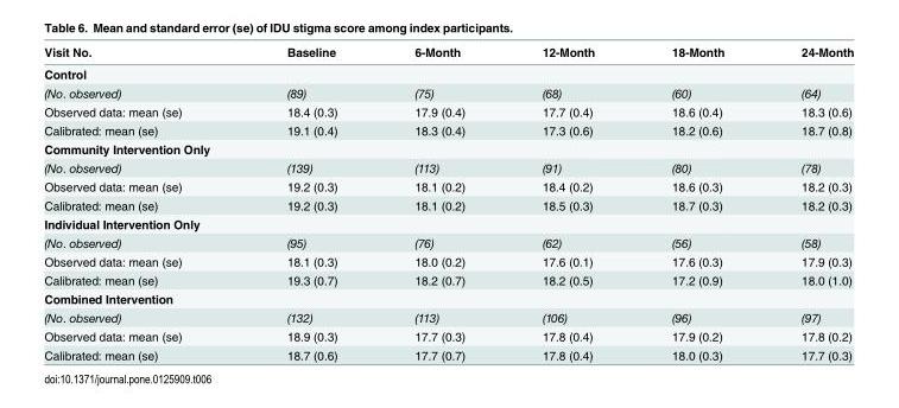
<table><thead><tr><td>Visit No.</td><td>Baseline</td><td>6-Month</td><td>12-Month</td><td>18-Month</td><td>24-Month</td></tr></thead><tbody><tr><td colspan="6">Control</td></tr><tr><td>(No. observed)</td><td>(89)</td><td>(75)</td><td>(68)</td><td>(60)</td><td>(64)</td></tr><tr><td>Observed data: mean (se)</td><td>18.4 (0.3)</td><td>17.9 (0.4)</td><td>17.7 (0.4)</td><td>18.6 (0.4)</td><td>18.3 (0.6)</td></tr><tr><td>Calibrated: mean (se)</td><td>19.1 (0.4)</td><td>18.3 (0.4)</td><td>17.3 (0.6)</td><td>18.2 (0.6)</td><td>18.7 (0.8)</td></tr><tr><td colspan="6">Community Intervention Only</td></tr><tr><td>(No. observed)</td><td>(139)</td><td>(113)</td><td>(91)</td><td>(80)</td><td>(78)</td></tr><tr><td>Observed data: mean (se)</td><td>19.2 (0.3)</td><td>18.1 (0.2)</td><td>18.4 (0.2)</td><td>18.6 (0.3)</td><td>18.2 (0.3)</td></tr><tr><td>Calibrated: mean (se)</td><td>19.2 (0.3)</td><td>18.1 (0.2)</td><td>18.5 (0.3)</td><td>18.7 (0.3)</td><td>18.2 (0.3)</td></tr><tr><td colspan="6">Individual Intervention Only</td></tr><tr><td>(No. observed)</td><td>(95)</td><td>(76)</td><td>(62)</td><td>(56)</td><td>(58)</td></tr><tr><td>Observed data: mean (se)</td><td>18.1 (0.3)</td><td>18.0 (0.2)</td><td>17.6 (0.1)</td><td>17.6 (0.3)</td><td>17.9 (0.3)</td></tr><tr><td>Calibrated: mean (se)</td><td>19.3 (0.7)</td><td>18.2 (0.7)</td><td>18.2 (0.5)</td><td>17.2 (0.9)</td><td>18.0 (1.0)</td></tr><tr><td colspan="6">Combined Intervention</td></tr><tr><td>(No. observed)</td><td>(132)</td><td>(113)</td><td>(106)</td><td>(96)</td><td>(97)</td></tr><tr><td>Observed data: mean (se)</td><td>18.9 (0.3)</td><td>17.7 (0.3)</td><td>17.8 (0.4)</td><td>17.9 (0.2)</td><td>17.8 (0.2)</td></tr><tr><td>Calibrated: mean (se)</td><td>18.7 (0.6)</td><td>17.7 (0.7)</td><td>17.8 (0.4)</td><td>18.0 (0.3)</td><td>17.7 (0.3)</td></tr></tbody></table>